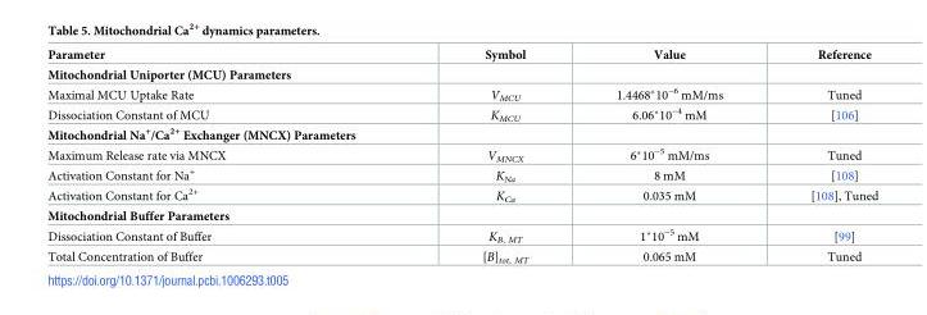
<table><thead><tr><td>Parameter</td><td>Symbol</td><td>Value</td><td>Reference</td></tr></thead><tbody><tr><td colspan="4">Mitochondrial Uniporter (MCU) Parameters</td></tr><tr><td>Maximal MCU Uptake Rate</td><td>V<sub>MCU</sub></td><td>1.4468*10<sup>−6</sup> mM/ms</td><td>Tuned</td></tr><tr><td>Dissociation Constant of MCU</td><td>K<sub>MCU</sub></td><td>6.06*10<sup>−4</sup> mM</td><td>[106]</td></tr><tr><td colspan="4">Mitochondrial Na<sup>+</sup>/Ca<sup>2+</sup> Exchanger (MNCX) Parameters</td></tr><tr><td>Maximum Release rate via MNCX</td><td>V<sub>MNCX</sub></td><td>6*10<sup>−5</sup> mM/ms</td><td>Tuned</td></tr><tr><td>Activation Constant for Na<sup>+</sup></td><td>K<sub>Na</sub></td><td>8 mM</td><td>[108]</td></tr><tr><td>Activation Constant for Ca<sup>2+</sup></td><td>K<sub>Ca</sub></td><td>0.035 mM</td><td>[108], Tuned</td></tr><tr><td colspan="4">Mitochondrial Buffer Parameters</td></tr><tr><td>Dissociation Constant of Buffer</td><td>K<sub>B, MT</sub></td><td>1*10<sup>−5</sup> mM</td><td>[99]</td></tr><tr><td>Total Concentration of Buffer</td><td>[B]<sub>tot, MT</sub></td><td>0.065 mM</td><td>Tuned</td></tr></tbody></table>